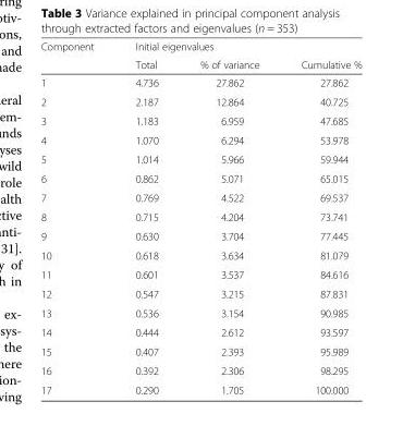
<table><thead><tr><td rowspan="2">Component</td><td colspan="3">Initial eigenvalues</td></tr><tr><td>Total</td><td>% of variance</td><td>Cumulative %</td></tr></thead><tbody><tr><td>1</td><td>4.736</td><td>27.862</td><td>27.862</td></tr><tr><td>2</td><td>2.187</td><td>12.864</td><td>40.725</td></tr><tr><td>3</td><td>1.183</td><td>6.959</td><td>47.685</td></tr><tr><td>4</td><td>1.070</td><td>6.294</td><td>53.978</td></tr><tr><td>5</td><td>1.014</td><td>5.966</td><td>59.944</td></tr><tr><td>6</td><td>0.862</td><td>5.071</td><td>65.015</td></tr><tr><td>7</td><td>0.769</td><td>4.522</td><td>69.537</td></tr><tr><td>8</td><td>0.715</td><td>4.204</td><td>73.741</td></tr><tr><td>9</td><td>0.630</td><td>3.704</td><td>77.445</td></tr><tr><td>10</td><td>0.618</td><td>3.634</td><td>81.079</td></tr><tr><td>11</td><td>0.601</td><td>3.537</td><td>84.616</td></tr><tr><td>12</td><td>0.547</td><td>3.215</td><td>87.831</td></tr><tr><td>13</td><td>0.536</td><td>3.154</td><td>90.985</td></tr><tr><td>14</td><td>0.444</td><td>2.612</td><td>93.597</td></tr><tr><td>15</td><td>0.407</td><td>2.393</td><td>95.989</td></tr><tr><td>16</td><td>0.392</td><td>2.306</td><td>98.295</td></tr><tr><td>17</td><td>0.290</td><td>1.705</td><td>100.000</td></tr></tbody></table>